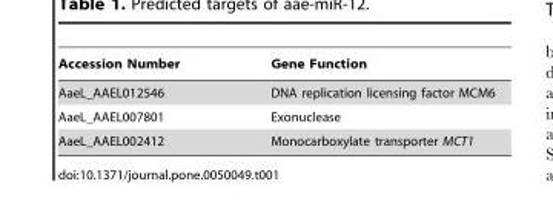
<table><thead><tr><td>Accession Number</td><td>Gene Function</td></tr></thead><tbody><tr><td>AaeL_AAEL012546</td><td>DNA replication licensing factor MCM6</td></tr><tr><td>AaeL_AAEL007801</td><td>Exonuclease</td></tr><tr><td>AaeL_AAEL002412</td><td>Monocarboxylate transporter MCT1</td></tr></tbody></table>